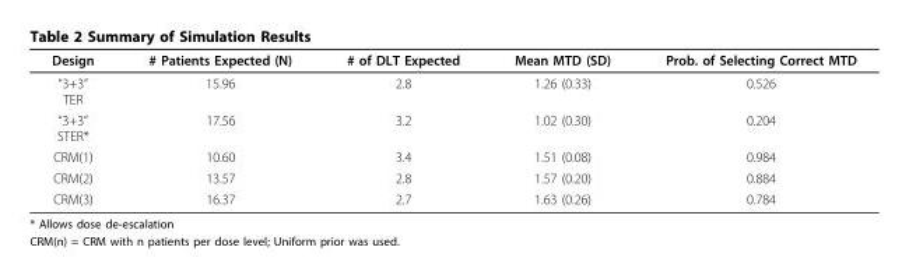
<table><thead><tr><td>Design</td><td># Patients Expected (N)</td><td># of DLT Expected</td><td>Mean MTD (SD)</td><td>Prob. of Selecting Correct MTD</td></tr></thead><tbody><tr><td>“3+3” TER</td><td>15.96</td><td>2.8</td><td>1.26 (0.33)</td><td>0.526</td></tr><tr><td>“3+3” STER*</td><td>17.56</td><td>3.2</td><td>1.02 (0.30)</td><td>0.204</td></tr><tr><td>CRM(1)</td><td>10.60</td><td>3.4</td><td>1.51 (0.08)</td><td>0.984</td></tr><tr><td>CRM(2)</td><td>13.57</td><td>2.8</td><td>1.57 (0.20)</td><td>0.884</td></tr><tr><td>CRM(3)</td><td>16.37</td><td>2.7</td><td>1.63 (0.26)</td><td>0.784</td></tr></tbody></table>